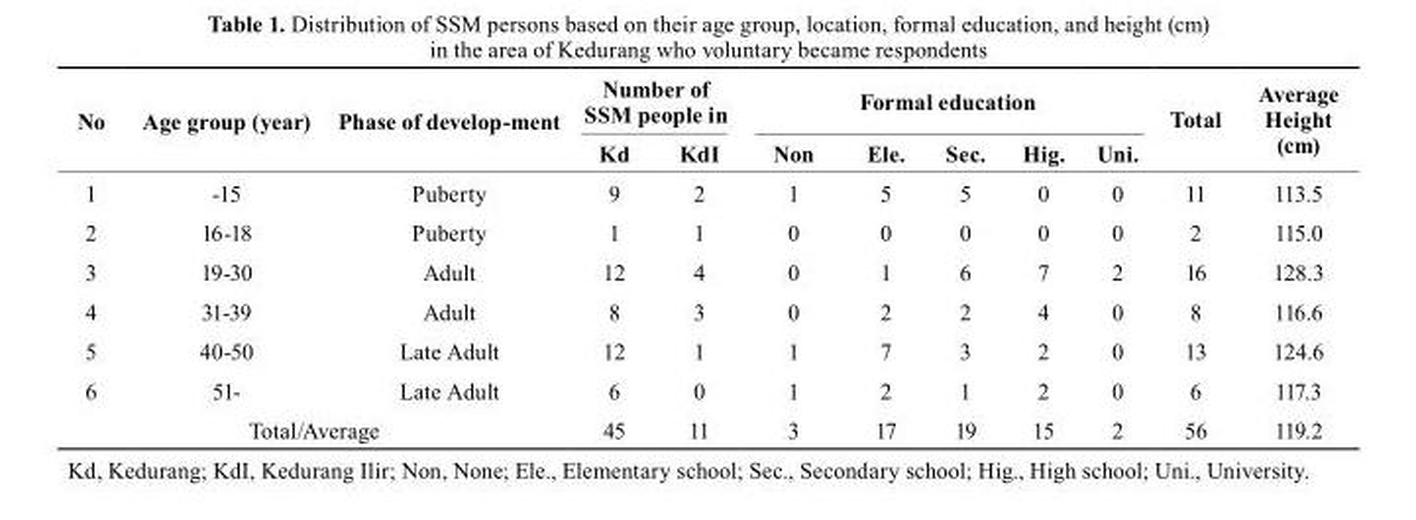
<table><thead><tr><td rowspan="2">No</td><td rowspan="2">Age group (year)</td><td rowspan="2">Phase of develop-ment</td><td colspan="2">Number of SSM people in</td><td colspan="5">Formal education</td><td rowspan="2">Total</td><td rowspan="2">Average Height (cm)</td></tr><tr><td>Kd</td><td>KdI</td><td>Non</td><td>Ele.</td><td>Sec.</td><td>Hig.</td><td>Uni.</td></tr></thead><tbody><tr><td>1</td><td>-15</td><td>Puberty</td><td>9</td><td>2</td><td>1</td><td>5</td><td>5</td><td>0</td><td>0</td><td>11</td><td>113.5</td></tr><tr><td>2</td><td>16-18</td><td>Puberty</td><td>1</td><td>1</td><td>0</td><td>0</td><td>0</td><td>0</td><td>0</td><td>2</td><td>115.0</td></tr><tr><td>3</td><td>19-30</td><td>Adult</td><td>12</td><td>4</td><td>0</td><td>1</td><td>6</td><td>7</td><td>2</td><td>16</td><td>128.3</td></tr><tr><td>4</td><td>31-39</td><td>Adult</td><td>8</td><td>3</td><td>0</td><td>2</td><td>2</td><td>4</td><td>0</td><td>8</td><td>116.6</td></tr><tr><td>5</td><td>40-50</td><td>Late Adult</td><td>12</td><td>1</td><td>1</td><td>7</td><td>3</td><td>2</td><td>0</td><td>13</td><td>124.6</td></tr><tr><td>6</td><td>51-</td><td>Late Adult</td><td>6</td><td>0</td><td>1</td><td>2</td><td>1</td><td>2</td><td>0</td><td>6</td><td>117.3</td></tr><tr><td colspan="3">Total/Average</td><td>45</td><td>11</td><td>3</td><td>17</td><td>19</td><td>15</td><td>2</td><td>56</td><td>119.2</td></tr></tbody></table>